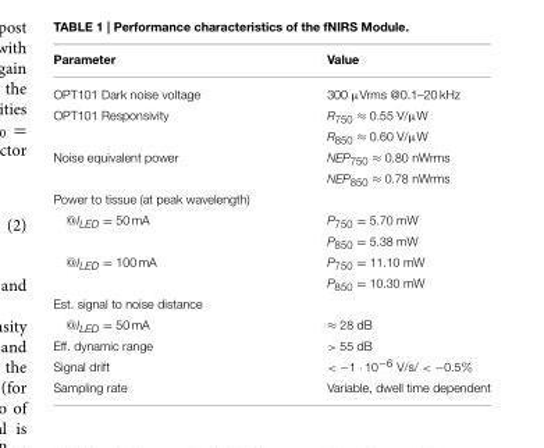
<table><thead><tr><td>Parameter</td><td>Value</td></tr></thead><tbody><tr><td>OPT101 Dark noise voltage</td><td>300 µVrms @0.1–20 kHz</td></tr><tr><td rowspan="2">OPT101 Responsivity</td><td>R<sub>750</sub> ≈ 0.55 V/µW</td></tr><tr><td>R<sub>850</sub> ≈ 0.60 V/µW</td></tr><tr><td rowspan="2">Noise equivalent power</td><td>NEP<sub>750</sub> ≈ 0.80 nWrms</td></tr><tr><td>NEP<sub>850</sub> ≈ 0.78 nWrms</td></tr><tr><td colspan="2">Power to tissue (at peak wavelength)</td></tr><tr><td rowspan="2">@I<sub>LED</sub> = 50 mA</td><td>P<sub>750</sub> = 5.70 mW</td></tr><tr><td>P<sub>850</sub> = 5.38 mW</td></tr><tr><td rowspan="2">@I<sub>LED</sub> = 100 mA</td><td>P<sub>750</sub> = 11.10 mW</td></tr><tr><td>P<sub>850</sub> = 10.30 mW</td></tr><tr><td colspan="2">Est. signal to noise distance</td></tr><tr><td>@I<sub>LED</sub> = 50 mA</td><td>≈ 28 dB</td></tr><tr><td>Eff. dynamic range</td><td>&gt; 55 dB</td></tr><tr><td>Signal drift</td><td>&lt; −1 · 10<sup>−6</sup> V/s/ &lt; −0.5%</td></tr><tr><td>Sampling rate</td><td>Variable, dwell time dependent</td></tr></tbody></table>